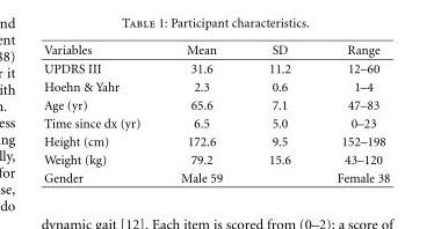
<table><thead><tr><td>Variables</td><td>Mean</td><td>SD</td><td>Range</td></tr></thead><tbody><tr><td>UPDRS III</td><td>31.6</td><td>11.2</td><td>12–60</td></tr><tr><td>Hoehn &amp; Yahr</td><td>2.3</td><td>0.6</td><td>1–4</td></tr><tr><td>Age (yr)</td><td>65.6</td><td>7.1</td><td>47–83</td></tr><tr><td>Time since dx (yr)</td><td>6.5</td><td>5.0</td><td>0–23</td></tr><tr><td>Height (cm)</td><td>172.6</td><td>9.5</td><td>152–198</td></tr><tr><td>Weight (kg)</td><td>79.2</td><td>15.6</td><td>43–120</td></tr><tr><td>Gender</td><td>Male 59</td><td></td><td>Female 38</td></tr></tbody></table>